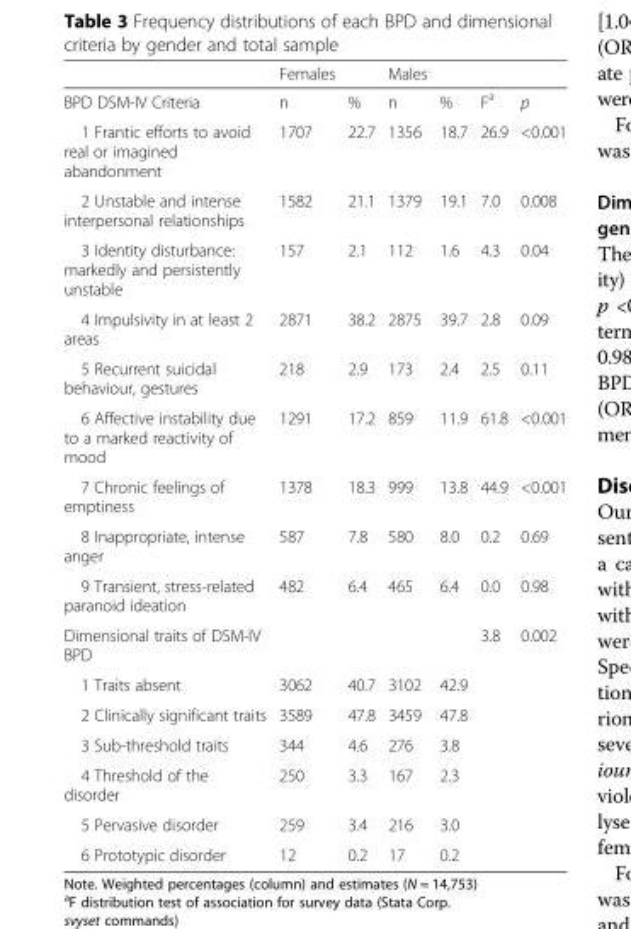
<table><thead><tr><td></td><td>Females</td><td></td><td>Males</td><td></td><td></td><td></td></tr></thead><tbody><tr><td>BPD DSM-IV Criteria</td><td>n</td><td>%</td><td>n</td><td>%</td><td>F<sup>a</sup></td><td>p</td></tr><tr><td>1 Frantic efforts to avoid real or imagined abandonment</td><td>1707</td><td>22.7</td><td>1356</td><td>18.7</td><td>26.9</td><td>&lt;0.001</td></tr><tr><td>2 Unstable and intense interpersonal relationships</td><td>1582</td><td>21.1</td><td>1379</td><td>19.1</td><td>7.0</td><td>0.008</td></tr><tr><td>3 Identity disturbance: markedly and persistently unstable</td><td>157</td><td>2.1</td><td>112</td><td>1.6</td><td>4.3</td><td>0.04</td></tr><tr><td>4 Impulsivity in at least 2 areas</td><td>2871</td><td>38.2</td><td>2875</td><td>39.7</td><td>2.8</td><td>0.09</td></tr><tr><td>5 Recurrent suicidal behaviour, gestures</td><td>218</td><td>2.9</td><td>173</td><td>2.4</td><td>2.5</td><td>0.11</td></tr><tr><td>6 Affective instability due to a marked reactivity of mood</td><td>1291</td><td>17.2</td><td>859</td><td>11.9</td><td>61.8</td><td>&lt;0.001</td></tr><tr><td>7 Chronic feelings of emptiness</td><td>1378</td><td>18.3</td><td>999</td><td>13.8</td><td>44.9</td><td>&lt;0.001</td></tr><tr><td>8 Inappropriate, intense anger</td><td>587</td><td>7.8</td><td>580</td><td>8.0</td><td>0.2</td><td>0.69</td></tr><tr><td>9 Transient, stress-related paranoid ideation</td><td>482</td><td>6.4</td><td>465</td><td>6.4</td><td>0.0</td><td>0.98</td></tr><tr><td>Dimensional traits of DSM-IV BPD</td><td></td><td></td><td></td><td></td><td>3.8</td><td>0.002</td></tr><tr><td>1 Traits absent</td><td>3062</td><td>40.7</td><td>3102</td><td>42.9</td><td></td><td></td></tr><tr><td>2 Clinically significant traits</td><td>3589</td><td>47.8</td><td>3459</td><td>47.8</td><td></td><td></td></tr><tr><td>3 Sub-threshold traits</td><td>344</td><td>4.6</td><td>276</td><td>3.8</td><td></td><td></td></tr><tr><td>4 Threshold of the disorder</td><td>250</td><td>3.3</td><td>167</td><td>2.3</td><td></td><td></td></tr><tr><td>5 Pervasive disorder</td><td>259</td><td>3.4</td><td>216</td><td>3.0</td><td></td><td></td></tr><tr><td>6 Prototypic disorder</td><td>12</td><td>0.2</td><td>17</td><td>0.2</td><td></td><td></td></tr></tbody></table>